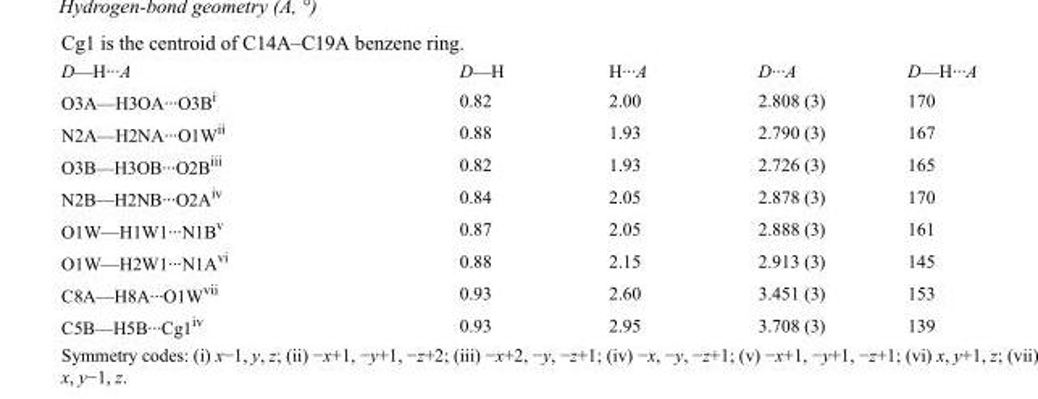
<table><tbody><tr><td>D—H···A</td><td>D—H</td><td>H···A</td><td>D···A</td><td>D—H···A</td></tr><tr><td>O3A—H3OA···O3B<sup>i</sup></td><td>0.82</td><td>2.00</td><td>2.808 (3)</td><td>170</td></tr><tr><td>N2A—H2NA···O1W<sup>ii</sup></td><td>0.88</td><td>1.93</td><td>2.790 (3)</td><td>167</td></tr><tr><td>O3B—H3OB···O2B<sup>iii</sup></td><td>0.82</td><td>1.93</td><td>2.726 (3)</td><td>165</td></tr><tr><td>N2B—H2NB···O2A<sup>iv</sup></td><td>0.84</td><td>2.05</td><td>2.878 (3)</td><td>170</td></tr><tr><td>O1W—H1W1···N1B<sup>v</sup></td><td>0.87</td><td>2.05</td><td>2.888 (3)</td><td>161</td></tr><tr><td>O1W—H2W1···N1A<sup>vi</sup></td><td>0.88</td><td>2.15</td><td>2.913 (3)</td><td>145</td></tr><tr><td>C8A—H8A···O1W<sup>vii</sup></td><td>0.93</td><td>2.60</td><td>3.451 (3)</td><td>153</td></tr><tr><td>C5B—H5B···Cg1<sup>iv</sup></td><td>0.93</td><td>2.95</td><td>3.708 (3)</td><td>139</td></tr></tbody></table>